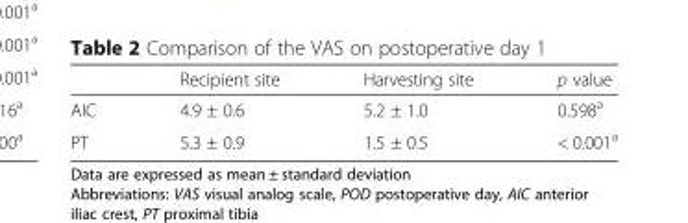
<table><thead><tr><td></td><td>Recipient site</td><td>Harvesting site</td><td>p value</td></tr></thead><tbody><tr><td>AIC</td><td>4.9 ± 0.6</td><td>5.2 ± 1.0</td><td>0.598<sup>a</sup></td></tr><tr><td>PT</td><td>5.3 ± 0.9</td><td>1.5 ± 0.5</td><td>&lt; 0.001<sup>a</sup></td></tr></tbody></table>